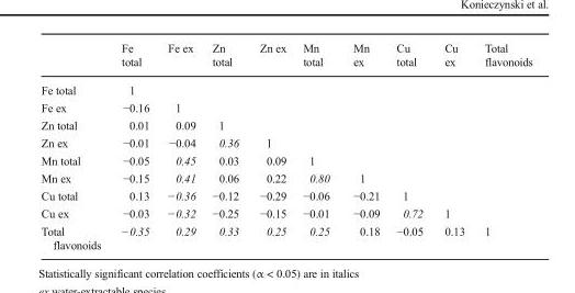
<table><thead><tr><td></td><td>Fe total</td><td>Fe ex</td><td>Zn total</td><td>Zn ex</td><td>Mn total</td><td>Mn ex</td><td>Cu total</td><td>Cu ex</td><td>Total flavonoids</td></tr></thead><tbody><tr><td>Fe total</td><td>1</td><td></td><td></td><td></td><td></td><td></td><td></td><td></td><td></td></tr><tr><td>Fe ex</td><td>−0.16</td><td>1</td><td></td><td></td><td></td><td></td><td></td><td></td><td></td></tr><tr><td>Zn total</td><td>0.01</td><td>0.09</td><td>1</td><td></td><td></td><td></td><td></td><td></td><td></td></tr><tr><td>Zn ex</td><td>−0.01</td><td>−0.04</td><td>0.36</td><td>1</td><td></td><td></td><td></td><td></td><td></td></tr><tr><td>Mn total</td><td>−0.05</td><td>0.45</td><td>0.03</td><td>0.09</td><td>1</td><td></td><td></td><td></td><td></td></tr><tr><td>Mn ex</td><td>−0.15</td><td>0.41</td><td>0.06</td><td>0.22</td><td>0.80</td><td>1</td><td></td><td></td><td></td></tr><tr><td>Cu total</td><td>0.13</td><td>−0.36</td><td>−0.12</td><td>−0.29</td><td>−0.06</td><td>−0.21</td><td>1</td><td></td><td></td></tr><tr><td>Cu ex</td><td>−0.03</td><td>−0.32</td><td>−0.25</td><td>−0.15</td><td>−0.01</td><td>−0.09</td><td>0.72</td><td>1</td><td></td></tr><tr><td>Total flavonoids</td><td>−0.35</td><td>0.29</td><td>0.33</td><td>0.25</td><td>0.25</td><td>0.18</td><td>−0.05</td><td>0.13</td><td>1</td></tr></tbody></table>